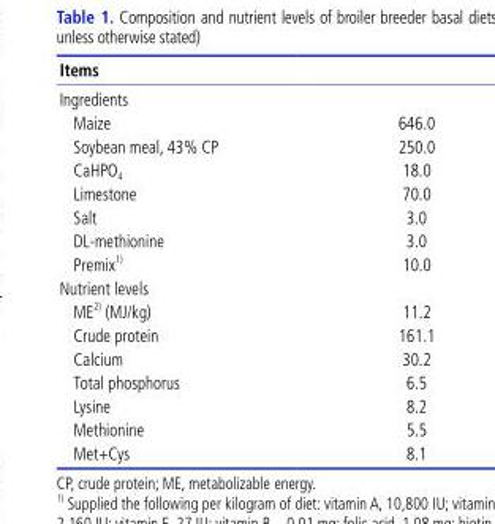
<table><thead><tr><td rowspan="2" colspan="2">Items Ingredients</td></tr><tr></tr><tr><td>Maize</td><td>646.0</td></tr></thead><tbody><tr><td>Soybean meal, 43% CP</td><td>250.0</td></tr><tr><td>CaHPO<sub>4</sub></td><td>18.0</td></tr><tr><td>Limestone</td><td>70.0</td></tr><tr><td>Salt</td><td>3.0</td></tr><tr><td>DL-methionine</td><td>3.0</td></tr><tr><td>Premix 1)</td><td>10.0</td></tr><tr><td colspan="2">Nutrient levels</td></tr><tr><td>ME 2) (MJ/kg)</td><td>11.2</td></tr><tr><td>Crude protein</td><td>161.1</td></tr><tr><td>Calcium</td><td>30.2</td></tr><tr><td>Total phosphorus</td><td>6.5</td></tr><tr><td>Lysine</td><td>8.2</td></tr><tr><td>Methionine</td><td>5.5</td></tr><tr><td>Met+Cys</td><td>8.1</td></tr></tbody></table>